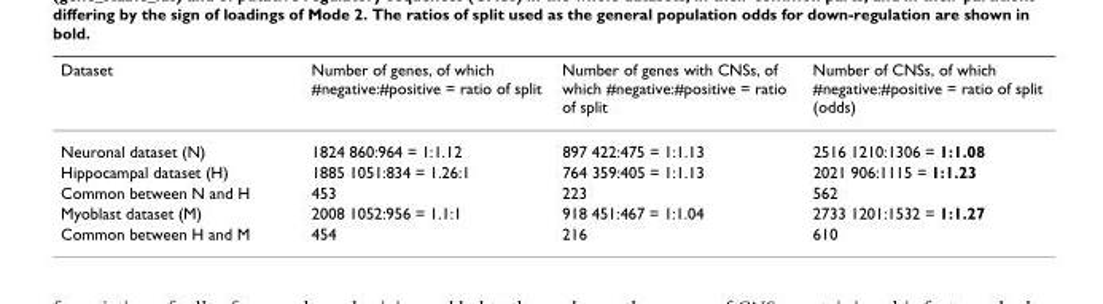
<table><thead><tr><td>Dataset</td><td>Number of genes, of which #negative:#positive = ratio of split</td><td>Number of genes with CNSs, of which #negative:#positive = ratio of split</td><td>Number of CNSs, of which #negative:#positive = ratio of split (odds)</td></tr></thead><tbody><tr><td>Neuronal dataset (N)</td><td>1824 860:964 = 1:1.12</td><td>897 422:475 = 1:1.13</td><td>2516 1210:1306 = 1:1.08</td></tr><tr><td>Hippocampal dataset (H)</td><td>1885 1051:834 = 1.26:1</td><td>764 359:405 = 1:1.13</td><td>2021 906:1115 = 1:1.23</td></tr><tr><td>Common between N and H</td><td>453</td><td>223</td><td>562</td></tr><tr><td>Myoblast dataset (M)</td><td>2008 1052:956 = 1.1:1</td><td>918 451:467 = 1:1.04</td><td>2733 1201:1532 = 1:1.27</td></tr><tr><td>Common between H and M</td><td>454</td><td>216</td><td>610</td></tr></tbody></table>